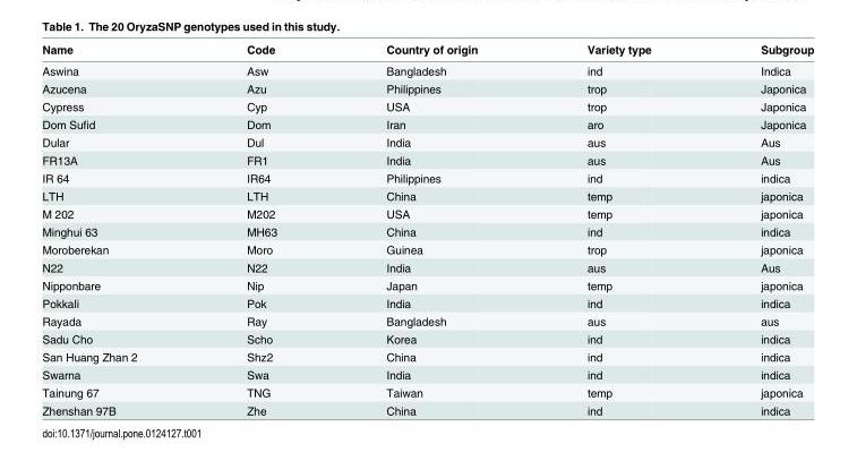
<table><thead><tr><td>Name</td><td>Code</td><td>Country of origin</td><td>Variety type</td><td>Subgroup</td></tr></thead><tbody><tr><td>Aswina</td><td>Asw</td><td>Bangladesh</td><td>ind</td><td>Indica</td></tr><tr><td>Azucena</td><td>Azu</td><td>Philippines</td><td>trop</td><td>Japonica</td></tr><tr><td>Cypress</td><td>Cyp</td><td>USA</td><td>trop</td><td>Japonica</td></tr><tr><td>Dom Sufid</td><td>Dom</td><td>Iran</td><td>aro</td><td>Japonica</td></tr><tr><td>Dular</td><td>Dul</td><td>India</td><td>aus</td><td>Aus</td></tr><tr><td>FR13A</td><td>FR1</td><td>India</td><td>aus</td><td>Aus</td></tr><tr><td>IR 64</td><td>IR64</td><td>Philippines</td><td>ind</td><td>indica</td></tr><tr><td>LTH</td><td>LTH</td><td>China</td><td>temp</td><td>japonica</td></tr><tr><td>M 202</td><td>M202</td><td>USA</td><td>temp</td><td>japonica</td></tr><tr><td>Minghui 63</td><td>MH63</td><td>China</td><td>ind</td><td>indica</td></tr><tr><td>Moroberekan</td><td>Moro</td><td>Guinea</td><td>trop</td><td>japonica</td></tr><tr><td>N22</td><td>N22</td><td>India</td><td>aus</td><td>Aus</td></tr><tr><td>Nipponbare</td><td>Nip</td><td>Japan</td><td>temp</td><td>japonica</td></tr><tr><td>Pokkali</td><td>Pok</td><td>India</td><td>ind</td><td>indica</td></tr><tr><td>Rayada</td><td>Ray</td><td>Bangladesh</td><td>aus</td><td>aus</td></tr><tr><td>Sadu Cho</td><td>Scho</td><td>Korea</td><td>ind</td><td>indica</td></tr><tr><td>San Huang Zhan 2</td><td>Shz2</td><td>China</td><td>ind</td><td>indica</td></tr><tr><td>Swarna</td><td>Swa</td><td>India</td><td>ind</td><td>indica</td></tr><tr><td>Tainung 67</td><td>TNG</td><td>Taiwan</td><td>temp</td><td>japonica</td></tr><tr><td>Zhenshan 97B</td><td>Zhe</td><td>China</td><td>ind</td><td>indica</td></tr></tbody></table>